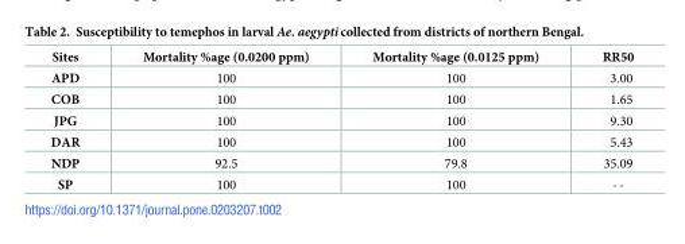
<table><thead><tr><td>Sites</td><td>Mortality %age (0.0200 ppm)</td><td>Mortality %age (0.0125 ppm)</td><td>RR50</td></tr></thead><tbody><tr><td>APD</td><td>100</td><td>100</td><td>3.00</td></tr><tr><td>COB</td><td>100</td><td>100</td><td>1.65</td></tr><tr><td>JPG</td><td>100</td><td>100</td><td>9.30</td></tr><tr><td>DAR</td><td>100</td><td>100</td><td>5.43</td></tr><tr><td>NDP</td><td>92.5</td><td>79.8</td><td>35.09</td></tr><tr><td>SP</td><td>100</td><td>100</td><td>--</td></tr></tbody></table>